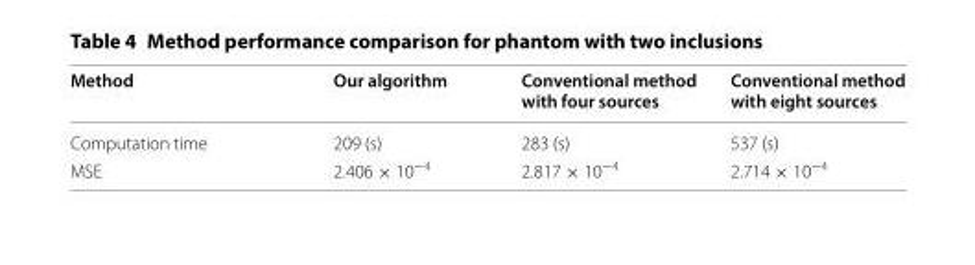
<table><thead><tr><td>Method</td><td>Our algorithm</td><td>Conventional method with four sources</td><td>Conventional method with eight sources</td></tr></thead><tbody><tr><td>Computation time</td><td>209 (s)</td><td>283 (s)</td><td>537 (s)</td></tr><tr><td>MSE</td><td>2.406 × 10<sup>−4</sup></td><td>2.817 × 10<sup>−4</sup></td><td>2.714 × 10<sup>−4</sup></td></tr></tbody></table>